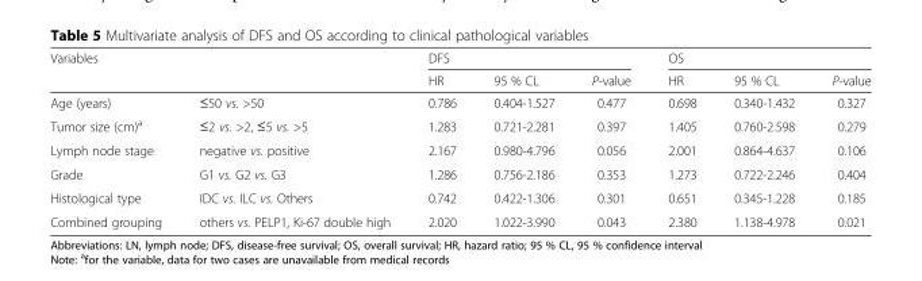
<table><thead><tr><td rowspan="2" colspan="2">Variables</td><td colspan="3">DFS</td><td colspan="3">OS</td></tr><tr><td rowspan="2">HR 0.786</td><td rowspan="2">95 % CL 0.404-1.527</td><td rowspan="2">P-value 0.477</td><td rowspan="2">HR 0.698</td><td rowspan="2">95 % CL 0.340-1.432</td><td rowspan="2">P-value 0.327</td></tr><tr><td>Age (years)</td><td>≤50 vs. &gt;50</td></tr></thead><tbody><tr><td>Tumor size (cm)<sup>a</sup></td><td>≤2 vs. &gt;2, ≤5 vs. &gt;5</td><td>1.283</td><td>0.721-2.281</td><td>0.397</td><td>1.405</td><td>0.760-2.598</td><td>0.279</td></tr><tr><td>Lymph node stage</td><td>negative vs. positive</td><td>2.167</td><td>0.980-4.796</td><td>0.056</td><td>2.001</td><td>0.864-4.637</td><td>0.106</td></tr><tr><td>Grade</td><td>G1 vs. G2 vs. G3</td><td>1.286</td><td>0.756-2.186</td><td>0.353</td><td>1.273</td><td>0.722-2.246</td><td>0.404</td></tr><tr><td>Histological type</td><td>IDC vs. ILC vs. Others</td><td>0.742</td><td>0.422-1.306</td><td>0.301</td><td>0.651</td><td>0.345-1.228</td><td>0.185</td></tr><tr><td>Combined grouping</td><td>others vs. PELP1, Ki-67 double high</td><td>2.020</td><td>1.022-3.990</td><td>0.043</td><td>2.380</td><td>1.138-4.978</td><td>0.021</td></tr></tbody></table>